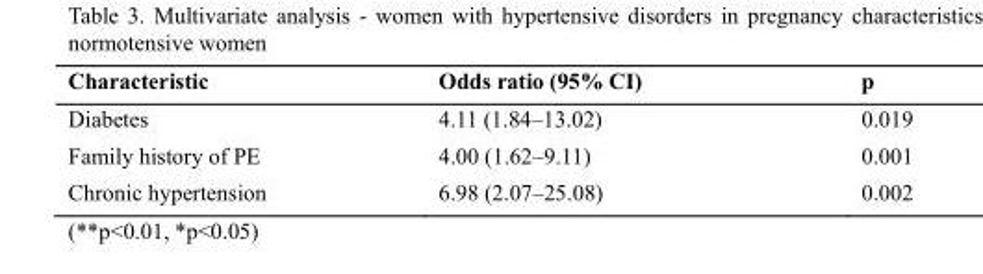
<table><thead><tr><td>Characteristic</td><td>Odds ratio (95% CI)</td><td>p</td></tr></thead><tbody><tr><td>Diabetes</td><td>4.11 (1.84–13.02)</td><td>0.019</td></tr><tr><td>Family history of PE</td><td>4.00 (1.62–9.11)</td><td>0.001</td></tr><tr><td>Chronic hypertension</td><td>6.98 (2.07–25.08)</td><td>0.002</td></tr></tbody></table>